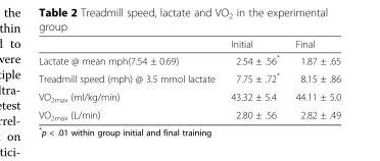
<table><thead><tr><td></td><td>Initial</td><td>Final</td></tr></thead><tbody><tr><td>Lactate @ mean mph(7.54 ± 0.69)</td><td>2.54 ± .56*</td><td>1.87 ± .65</td></tr><tr><td>Treadmill speed (mph) @ 3.5 mmol lactate</td><td>7.75 ± .72*</td><td>8.15 ± .86</td></tr><tr><td>VO<sub>2max</sub> (ml/kg/min)</td><td>43.32 ± 5.4</td><td>44.11 ± 5.0</td></tr><tr><td>VO<sub>2max</sub> (L/min)</td><td>2.80 ± .56</td><td>2.82 ± .49</td></tr></tbody></table>